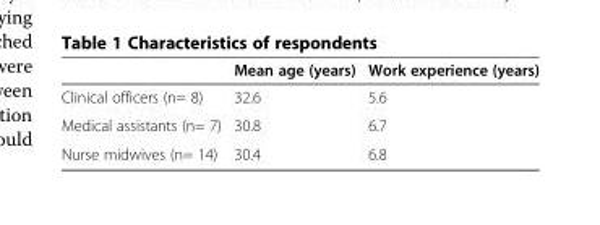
<table><thead><tr><td></td><td>Mean age (years)</td><td>Work experience (years)</td></tr></thead><tbody><tr><td>Clinical officers (n= 8)</td><td>32.6</td><td>5.6</td></tr><tr><td>Medical assistants (n= 7)</td><td>30.8</td><td>6.7</td></tr><tr><td>Nurse midwives (n= 14)</td><td>30.4</td><td>6.8</td></tr></tbody></table>